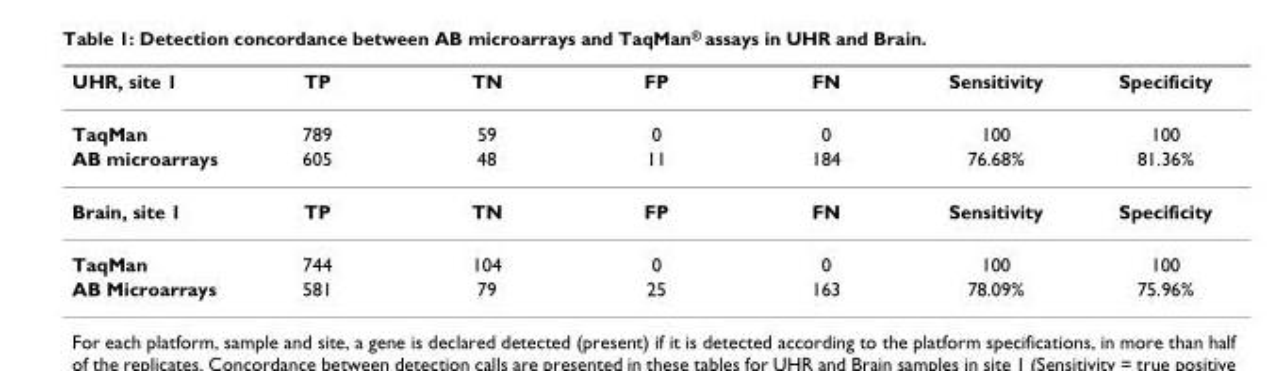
<table><thead><tr><td>UHR, site 1</td><td>TP</td><td>TN</td><td>FP</td><td>FN</td><td>Sensitivity</td><td>Specificity</td></tr></thead><tbody><tr><td>TaqMan</td><td>789</td><td>59</td><td>0</td><td>0</td><td>100</td><td>100</td></tr><tr><td>AB microarrays</td><td>605</td><td>48</td><td>11</td><td>184</td><td>76.68%</td><td>81.36%</td></tr><tr><td>Brain, site 1</td><td>TP</td><td>TN</td><td>FP</td><td>FN</td><td>Sensitivity</td><td>Specificity</td></tr><tr><td>TaqMan</td><td>744</td><td>104</td><td>0</td><td>0</td><td>100</td><td>100</td></tr><tr><td>AB Microarrays</td><td>581</td><td>79</td><td>25</td><td>163</td><td>78.09%</td><td>75.96%</td></tr></tbody></table>